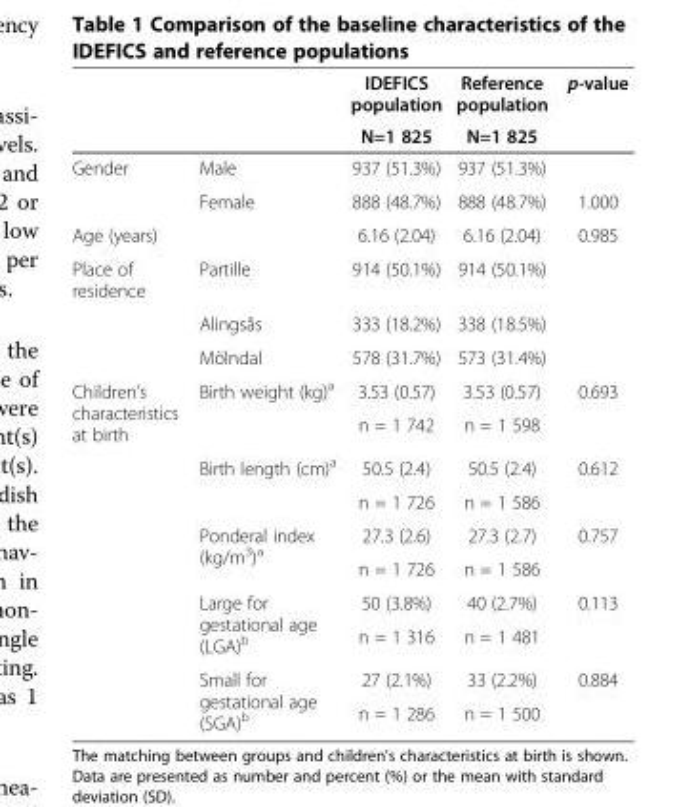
<table><thead><tr><td rowspan="2"></td><td rowspan="2"></td><td rowspan="2">IDEFICS population N=1 825</td><td rowspan="2">Reference population N=1 825</td><td rowspan="2">p-value</td></tr><tr></tr></thead><tbody><tr><td rowspan="2">Gender</td><td>Male</td><td>937 (51.3%)</td><td>937 (51.3%)</td><td></td></tr><tr><td>Female</td><td>888 (48.7%)</td><td>888 (48.7%)</td><td>1.000</td></tr><tr><td>Age (years)</td><td></td><td>6.16 (2.04)</td><td>6.16 (2.04)</td><td>0.985</td></tr><tr><td rowspan="3">Place of residence</td><td>Partille</td><td>914 (50.1%)</td><td>914 (50.1%)</td><td></td></tr><tr><td>Alingsås</td><td>333 (18.2%)</td><td>338 (18.5%)</td><td></td></tr><tr><td>Mölndal</td><td>578 (31.7%)</td><td>573 (31.4%)</td><td></td></tr><tr><td rowspan="10">Children’s characteristics at birth</td><td rowspan="2">Birth weight (kg)<sup>a</sup></td><td>3.53 (0.57)</td><td>3.53 (0.57)</td><td rowspan="2">0.693</td></tr><tr><td>n = 1 742</td><td>n = 1 598</td></tr><tr><td rowspan="2">Birth length (cm)<sup>a</sup></td><td>50.5 (2.4)</td><td>50.5 (2.4)</td><td rowspan="2">0.612</td></tr><tr><td>n = 1 726</td><td>n = 1 586</td></tr><tr><td rowspan="2">Ponderal index (kg/m<sup>3</sup>)<sup>a</sup></td><td>27.3 (2.6)</td><td>27.3 (2.7)</td><td rowspan="2">0.757</td></tr><tr><td>n = 1 726</td><td>n = 1 586</td></tr><tr><td rowspan="2">Large for gestational age (LGA)<sup>b</sup></td><td>50 (3.8%)</td><td>40 (2.7%)</td><td rowspan="2">0.113</td></tr><tr><td>n = 1 316</td><td>n = 1 481</td></tr><tr><td rowspan="2">Small for gestational age (SGA)<sup>b</sup></td><td>27 (2.1%)</td><td>33 (2.2%)</td><td rowspan="2">0.884</td></tr><tr><td>n = 1 286</td><td>n = 1 500</td></tr></tbody></table>